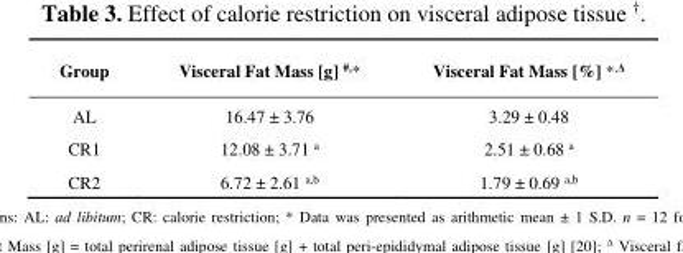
<table><thead><tr><td>Group</td><td>Visceral Fat Mass [g] <sup>#,</sup>*</td><td>Visceral Fat Mass [%] *<sup>,Δ</sup></td></tr></thead><tbody><tr><td>AL</td><td>16.47 ± 3.76</td><td>3.29 ± 0.48</td></tr><tr><td>CR1</td><td>12.08 ± 3.71 <sup>a</sup></td><td>2.51 ± 0.68 <sup>a</sup></td></tr><tr><td>CR2</td><td>6.72 ± 2.61 <sup>a,b</sup></td><td>1.79 ± 0.69 <sup>a,b</sup></td></tr></tbody></table>